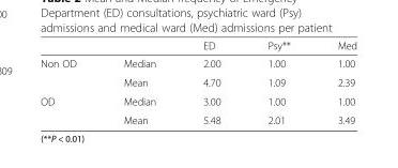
<table><thead><tr><td></td><td></td><td>ED</td><td>Psy**</td><td>Med</td></tr></thead><tbody><tr><td rowspan="2">Non OD</td><td>Median</td><td>2.00</td><td>1.00</td><td>1.00</td></tr><tr><td>Mean</td><td>4.70</td><td>1.09</td><td>2.39</td></tr><tr><td rowspan="2">OD</td><td>Median</td><td>3.00</td><td>1.00</td><td>1.00</td></tr><tr><td>Mean</td><td>5.48</td><td>2.01</td><td>3.49</td></tr></tbody></table>